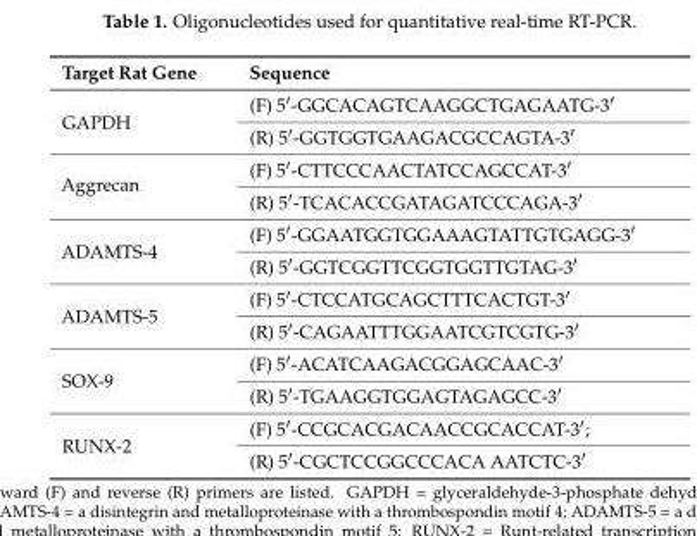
<table><thead><tr><td>Target Rat Gene</td><td>Sequence</td></tr></thead><tbody><tr><td rowspan="2">GAPDH</td><td>(F) 5′-GGCACAGTCAAGGCTGAGAATG-3′</td></tr><tr><td>(R) 5′-GGTGGTGAAGACGCCAGTA-3′</td></tr><tr><td rowspan="2">Aggrecan</td><td>(F) 5′-CTTCCCAACTATCCAGCCAT-3′</td></tr><tr><td>(R) 5′-TCACACCGATAGATCCCAGA-3′</td></tr><tr><td rowspan="2">ADAMTS-4</td><td>(F) 5′-GGAATGGTGGAAAGTATTGTGAGG-3′</td></tr><tr><td>(R) 5′-GGTCGGTTCGGTGGTTGTAG-3′</td></tr><tr><td rowspan="2">ADAMTS-5</td><td>(F) 5′-CTCCATGCAGCTTTCACTGT-3′</td></tr><tr><td>(R) 5′-CAGAATTTGGAATCGTCGTG-3′</td></tr><tr><td rowspan="2">SOX-9</td><td>(F) 5′-ACATCAAGACGGAGCAAC-3′</td></tr><tr><td>(R) 5′-TGAAGGTGGAGTAGAGCC-3′</td></tr><tr><td rowspan="2">RUNX-2</td><td>(F) 5′-CCGCACGACAACCGCACCAT-3′;</td></tr><tr><td>(R) 5′-CGCTCCGGCCCACA AATCTC-3′</td></tr></tbody></table>